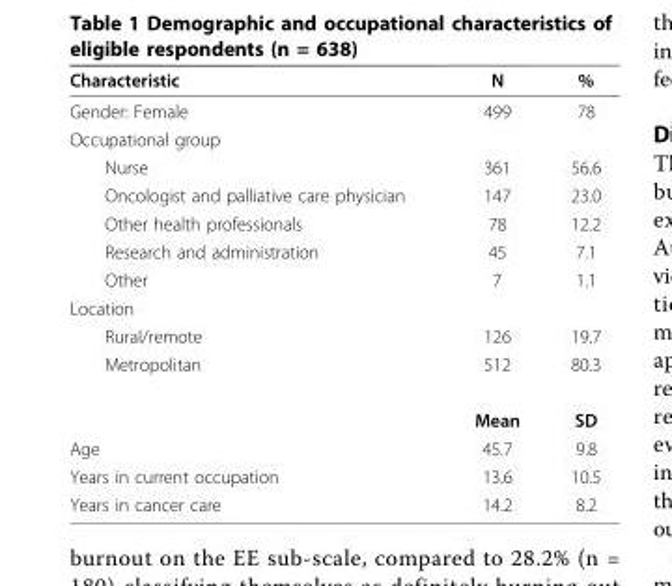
<table><thead><tr><td>Characteristic</td><td>N</td><td>%</td></tr></thead><tbody><tr><td>Gender: Female</td><td>499</td><td>78</td></tr><tr><td colspan="3">Occupational group</td></tr><tr><td>Nurse</td><td>361</td><td>56.6</td></tr><tr><td>Oncologist and palliative care physician</td><td>147</td><td>23.0</td></tr><tr><td>Other health professionals</td><td>78</td><td>12.2</td></tr><tr><td>Research and administration</td><td>45</td><td>7.1</td></tr><tr><td>Other</td><td>7</td><td>1.1</td></tr><tr><td colspan="3">Location</td></tr><tr><td>Rural/remote</td><td>126</td><td>19.7</td></tr><tr><td rowspan="2">Metropolitan</td><td>512</td><td>80.3</td></tr><tr><td>Mean</td><td>SD</td></tr><tr><td>Age</td><td>45.7</td><td>9.8</td></tr><tr><td>Years in current occupation</td><td>13.6</td><td>10.5</td></tr><tr><td>Years in cancer care</td><td>14.2</td><td>8.2</td></tr></tbody></table>